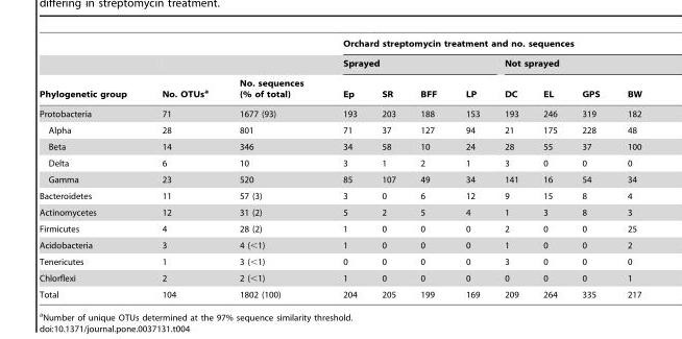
<table><thead><tr><td rowspan="3">Phylogenetic group</td><td rowspan="3">No. OTUs<sup>a</sup></td><td rowspan="3">No. sequences (% of total)</td><td colspan="8">Orchard streptomycin treatment and no. sequences</td></tr><tr><td colspan="4">Sprayed</td><td colspan="4">Not sprayed</td></tr><tr><td>Ep</td><td>SR</td><td>BFF</td><td>LP</td><td>DC</td><td>EL</td><td>GPS</td><td>BW</td></tr></thead><tbody><tr><td>Protobacteria</td><td>71</td><td>1677 (93)</td><td>193</td><td>203</td><td>188</td><td>153</td><td>193</td><td>246</td><td>319</td><td>182</td></tr><tr><td>Alpha</td><td>28</td><td>801</td><td>71</td><td>37</td><td>127</td><td>94</td><td>21</td><td>175</td><td>228</td><td>48</td></tr><tr><td>Beta</td><td>14</td><td>346</td><td>34</td><td>58</td><td>10</td><td>24</td><td>28</td><td>55</td><td>37</td><td>100</td></tr><tr><td>Delta</td><td>6</td><td>10</td><td>3</td><td>1</td><td>2</td><td>1</td><td>3</td><td>0</td><td>0</td><td>0</td></tr><tr><td>Gamma</td><td>23</td><td>520</td><td>85</td><td>107</td><td>49</td><td>34</td><td>141</td><td>16</td><td>54</td><td>34</td></tr><tr><td>Bacteroidetes</td><td>11</td><td>57 (3)</td><td>3</td><td>0</td><td>6</td><td>12</td><td>9</td><td>15</td><td>8</td><td>4</td></tr><tr><td>Actinomycetes</td><td>12</td><td>31 (2)</td><td>5</td><td>2</td><td>5</td><td>4</td><td>1</td><td>3</td><td>8</td><td>3</td></tr><tr><td>Firmicutes</td><td>4</td><td>28 (2)</td><td>1</td><td>0</td><td>0</td><td>0</td><td>2</td><td>0</td><td>0</td><td>25</td></tr><tr><td>Acidobacteria</td><td>3</td><td>4 (&lt;1)</td><td>1</td><td>0</td><td>0</td><td>0</td><td>1</td><td>0</td><td>0</td><td>2</td></tr><tr><td>Tenericutes</td><td>1</td><td>3 (&lt;1)</td><td>0</td><td>0</td><td>0</td><td>0</td><td>3</td><td>0</td><td>0</td><td>0</td></tr><tr><td>Chlorflexi</td><td>2</td><td>2 (&lt;1)</td><td>1</td><td>0</td><td>0</td><td>0</td><td>0</td><td>0</td><td>0</td><td>1</td></tr><tr><td>Total</td><td>104</td><td>1802 (100)</td><td>204</td><td>205</td><td>199</td><td>169</td><td>209</td><td>264</td><td>335</td><td>217</td></tr></tbody></table>